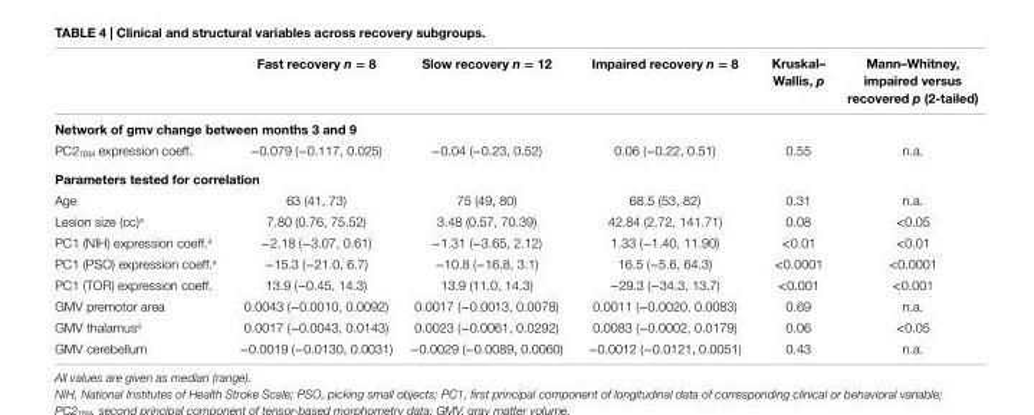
<table><thead><tr><td></td><td>Fast recovery n = 8</td><td>slow recovery n = 12</td><td>impaired recovery n = 8</td><td>Kruskal– Wallis, p</td><td>Mann–Whitney, impaired versus recovered p (2-tailed)</td></tr></thead><tbody><tr><td colspan="6">network of gmv change between months 3 and 9</td></tr><tr><td>PC2<sub>TBM</sub> expression coeff.</td><td>−0.079 (−0.117, 0.025)</td><td>−0.04 (−0.23, 0.52)</td><td>0.06 (−0.22, 0.51)</td><td>0.55</td><td>n.a.</td></tr><tr><td colspan="6">Parameters tested for correlation</td></tr><tr><td>Age</td><td>63 (41, 73)</td><td>75 (49, 80)</td><td>68.5 (53, 82)</td><td>0.31</td><td>n.a.</td></tr><tr><td>Lesion size (cc)<sup>a</sup></td><td>7.80 (0.76, 75.52)</td><td>3.48 (0.57, 70.39)</td><td>42.84 (2.72, 141.71)</td><td>0.08</td><td>&lt;0.05</td></tr><tr><td>PC1 (NIH) expression coeff.<sup>a</sup></td><td>−2.18 (−3.07, 0.61)</td><td>−1.31 (−3.65, 2.12)</td><td>1.33 (−1.40, 11.90)</td><td>&lt;0.01</td><td>&lt;0.01</td></tr><tr><td>PC1 (PSO) expression coeff.<sup>a</sup></td><td>−15.3 (−21.0, 6.7)</td><td>−10.8 (−16.8, 3.1)</td><td>16.5 (−5.6, 64.3)</td><td>&lt;0.0001</td><td>&lt;0.0001</td></tr><tr><td>PC1 (TOR) expression coeff.</td><td>13.9 (−0.45, 14.3)</td><td>13.9 (11.0, 14.3)</td><td>−29.3 (−34.3, 13.7)</td><td>&lt;0.001</td><td>&lt;0.001</td></tr><tr><td>GMV premotor area</td><td>0.0043 (−0.0010, 0.0092)</td><td>0.0017 (−0.0013, 0.0078)</td><td>0.0011 (−0.0020, 0.0083)</td><td>0.69</td><td>n.a.</td></tr><tr><td>GMV thalamus<sup>a</sup></td><td>0.0017 (−0.0043, 0.0143)</td><td>0.0023 (−0.0061, 0.0292)</td><td>0.0083 (−0.0002, 0.0179)</td><td>0.06</td><td>&lt;0.05</td></tr><tr><td>GMV cerebellum</td><td>−0.0019 (−0.0130, 0.0031)</td><td>−0.0029 (−0.0089, 0.0060)</td><td>−0.0012 (−0.0121, 0.0051)</td><td>0.43</td><td>n.a.</td></tr></tbody></table>